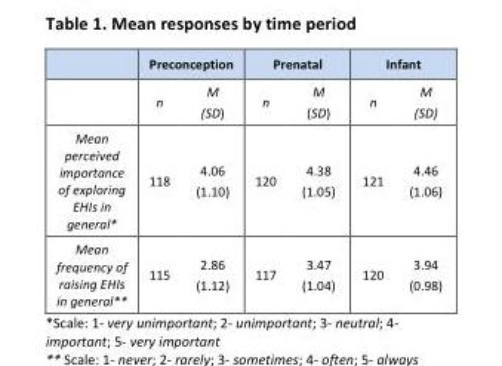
<table><thead><tr><td rowspan="2"></td><td colspan="2">Preconception</td><td colspan="2">Prenatal</td><td colspan="2">Infant</td></tr><tr><td>n</td><td>M (SD)</td><td>n</td><td>M (SD)</td><td>n</td><td>M (SD)</td></tr></thead><tbody><tr><td>Mean perceived importance of exploring EHIs in general*</td><td>118</td><td>4.06 (1.10)</td><td>120</td><td>4.38 (1.05)</td><td>121</td><td>4.46 (1.06)</td></tr><tr><td>Mean frequency of raising EHIs in general**</td><td>115</td><td>2.86 (1.12)</td><td>117</td><td>3.47 (1.04)</td><td>120</td><td>3.94 (0.98)</td></tr></tbody></table>